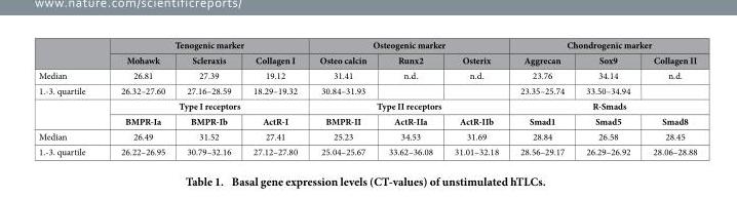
<table><thead><tr><td rowspan="2"></td><td colspan="3">Tenogenic marker</td><td colspan="3">Osteogenic marker</td><td colspan="3">Chondrogenic marker</td></tr><tr><td>Mohawk</td><td>Scleraxis</td><td>Collagen I</td><td>Osteo calcin</td><td>Runx2</td><td>Osterix</td><td>Aggrecan</td><td>Sox9</td><td>Collagen II</td></tr></thead><tbody><tr><td>Median</td><td>26.81</td><td>27.39</td><td>19.12</td><td>31.41</td><td>n.d.</td><td>n.d.</td><td>23.76</td><td>34.14</td><td>n.d.</td></tr><tr><td rowspan="3">1.-3. quartile</td><td>26.32–27.60</td><td>27.16–28.59</td><td>18.29–19.32</td><td>30.84–31.93</td><td></td><td></td><td>23.35–25.74</td><td>33.50–34.94</td><td></td></tr><tr><td colspan="3">Type I receptors</td><td colspan="3">Type II receptors</td><td colspan="3">R-Smads</td></tr><tr><td>BMPR-Ia</td><td>BMPR-Ib</td><td>ActR-I</td><td>BMPR-II</td><td>ActR-IIa</td><td>ActR-IIb</td><td>Smad1</td><td>Smad5</td><td>Smad8</td></tr><tr><td>Median</td><td>26.49</td><td>31.52</td><td>27.41</td><td>25.23</td><td>34.53</td><td>31.69</td><td>28.84</td><td>26.58</td><td>28.45</td></tr><tr><td>1.-3. quartile</td><td>26.22–26.95</td><td>30.79–32.16</td><td>27.12–27.80</td><td>25.04–25.67</td><td>33.62–36.08</td><td>31.01–32.18</td><td>28.56–29.17</td><td>26.29–26.92</td><td>28.06–28.88</td></tr></tbody></table>